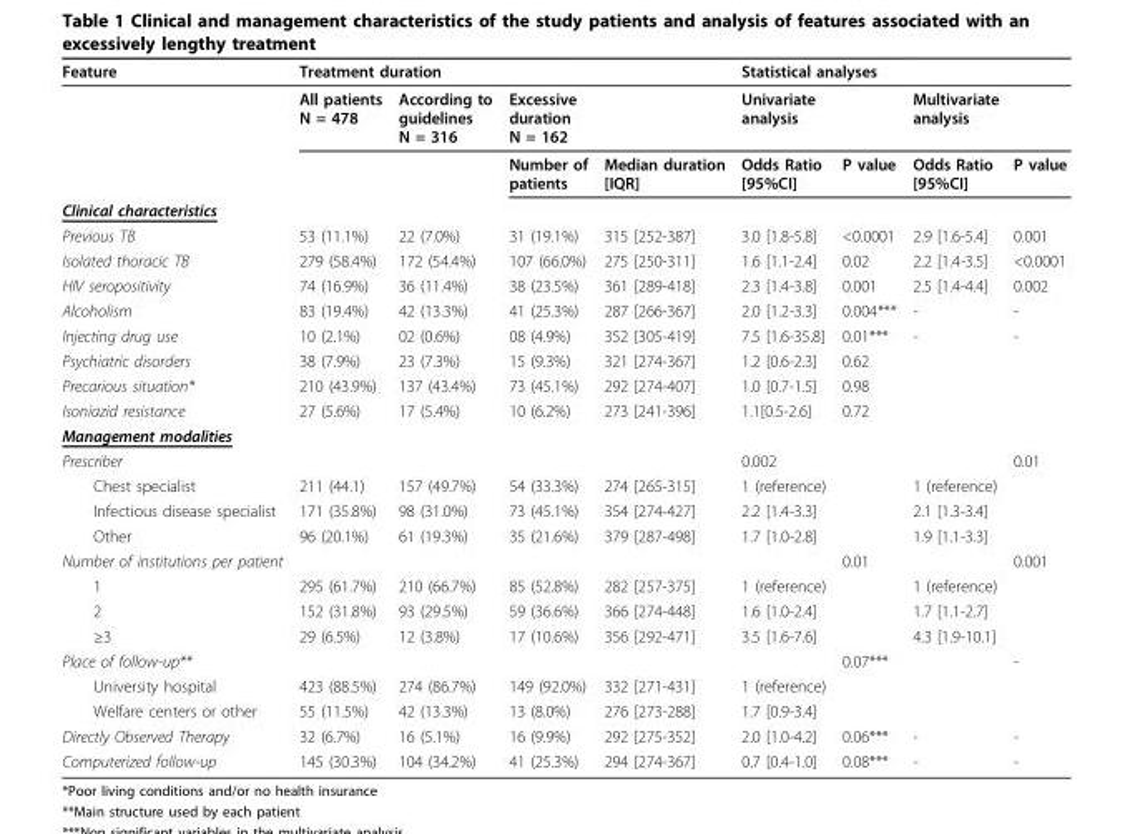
<table><thead><tr><td rowspan="3">Feature</td><td colspan="4">Treatment duration</td><td colspan="4">Statistical analyses</td></tr><tr><td rowspan="2">All patients N = 478</td><td rowspan="2">According to guidelines N = 316</td><td colspan="2">Excessive duration N = 162</td><td colspan="2">Univariate analysis</td><td colspan="2">Multivariate analysis</td></tr><tr><td>Number of patients</td><td>Median duration [IQR]</td><td>Odds Ratio [95%CI]</td><td>P value</td><td>Odds Ratio [95%CI]</td><td>P value</td></tr></thead><tbody><tr><td colspan="9">Clinical characteristics</td></tr><tr><td>Previous TB</td><td>53 (11.1%)</td><td>22 (7.0%)</td><td>31 (19.1%)</td><td>315 [252-387]</td><td>3.0 [1.8-5.8]</td><td>&lt;0.0001</td><td>2.9 [1.6-5.4]</td><td>0.001</td></tr><tr><td>Isolated thoracic TB</td><td>279 (58.4%)</td><td>172 (54.4%)</td><td>107 (66.0%)</td><td>275 [250-311]</td><td>1.6 [1.1-2.4]</td><td>0.02</td><td>2.2 [1.4-3.5]</td><td>&lt;0.0001</td></tr><tr><td>HIV seropositivity</td><td>74 (16.9%)</td><td>36 (11.4%)</td><td>38 (23.5%)</td><td>361 [289-418]</td><td>2.3 [1.4-3.8]</td><td>0.001</td><td>2.5 [1.4-4.4]</td><td>0.002</td></tr><tr><td>Alcoholism</td><td>83 (19.4%)</td><td>42 (13.3%)</td><td>41 (25.3%)</td><td>287 [266-367]</td><td>2.0 [1.2-3.3]</td><td>0.004***</td><td>-</td><td>-</td></tr><tr><td>Injecting drug use</td><td>10 (2.1%)</td><td>02 (0.6%)</td><td>08 (4.9%)</td><td>352 [305-419]</td><td>7.5 [1.6-35.8]</td><td>0.01***</td><td>-</td><td>-</td></tr><tr><td>Psychiatric disorders</td><td>38 (7.9%)</td><td>23 (7.3%)</td><td>15 (9.3%)</td><td>321 [274-367]</td><td>1.2 [0.6-2.3]</td><td>0.62</td><td></td><td></td></tr><tr><td>Precarious situation*</td><td>210 (43.9%)</td><td>137 (43.4%)</td><td>73 (45.1%)</td><td>292 [274-407]</td><td>1.0 [0.7-1.5]</td><td>0.98</td><td></td><td></td></tr><tr><td>Isoniazid resistance</td><td>27 (5.6%)</td><td>17 (5.4%)</td><td>10 (6.2%)</td><td>273 [241-396]</td><td>1.1[0.5-2.6]</td><td>0.72</td><td></td><td></td></tr><tr><td colspan="9">Management modalities</td></tr><tr><td>Prescriber</td><td></td><td></td><td></td><td></td><td>0.002</td><td></td><td></td><td>0.01</td></tr><tr><td>Chest specialist</td><td>211 (44.1)</td><td>157 (49.7%)</td><td>54 (33.3%)</td><td>274 [265-315]</td><td>1 (reference)</td><td></td><td>1 (reference)</td><td></td></tr><tr><td>Infectious disease specialist</td><td>171 (35.8%)</td><td>98 (31.0%)</td><td>73 (45.1%)</td><td>354 [274-427]</td><td>2.2 [1.4-3.3]</td><td></td><td>2.1 [1.3-3.4]</td><td></td></tr><tr><td>Other</td><td>96 (20.1%)</td><td>61 (19.3%)</td><td>35 (21.6%)</td><td>379 [287-498]</td><td>1.7 [1.0-2.8]</td><td></td><td>1.9 [1.1-3.3]</td><td></td></tr><tr><td>Number of institutions per patient</td><td></td><td></td><td></td><td></td><td></td><td>0.01</td><td></td><td>0.001</td></tr><tr><td>1</td><td>295 (61.7%)</td><td>210 (66.7%)</td><td>85 (52.8%)</td><td>282 [257-375]</td><td>1 (reference)</td><td></td><td>1 (reference)</td><td></td></tr><tr><td>2</td><td>152 (31.8%)</td><td>93 (29.5%)</td><td>59 (36.6%)</td><td>366 [274-448]</td><td>1.6 [1.0-2.4]</td><td></td><td>1.7 [1.1-2.7]</td><td></td></tr><tr><td>≥3</td><td>29 (6.5%)</td><td>12 (3.8%)</td><td>17 (10.6%)</td><td>356 [292-471]</td><td>3.5 [1.6-7.6]</td><td></td><td>4.3 [1.9-10.1]</td><td></td></tr><tr><td>Place of follow-up**</td><td></td><td></td><td></td><td></td><td></td><td>0.07***</td><td></td><td>-</td></tr><tr><td>University hospital</td><td>423 (88.5%)</td><td>274 (86.7%)</td><td>149 (92.0%)</td><td>332 [271-431]</td><td>1 (reference)</td><td></td><td></td><td></td></tr><tr><td>Welfare centers or other</td><td>55 (11.5%)</td><td>42 (13.3%)</td><td>13 (8.0%)</td><td>276 [273-288]</td><td>1.7 [0.9-3.4]</td><td></td><td></td><td></td></tr><tr><td>Directly Observed Therapy</td><td>32 (6.7%)</td><td>16 (5.1%)</td><td>16 (9.9%)</td><td>292 [275-352]</td><td>2.0 [1.0-4.2]</td><td>0.06***</td><td>-</td><td>-</td></tr><tr><td>Computerized follow-up</td><td>145 (30.3%)</td><td>104 (34.2%)</td><td>41 (25.3%)</td><td>294 [274-367]</td><td>0.7 [0.4-1.0]</td><td>0.08***</td><td>-</td><td>-</td></tr></tbody></table>